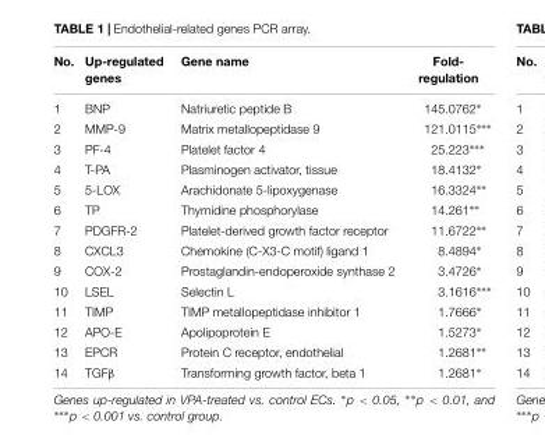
<table><thead><tr><td>No.</td><td>Up-regulated genes</td><td>Gene name</td><td>Fold- regulation</td></tr></thead><tbody><tr><td>1</td><td>BNP</td><td>Natriuretic peptide B</td><td>145.0762∗</td></tr><tr><td>2</td><td>MMP-9</td><td>Matrix metallopeptidase 9</td><td>121.0115∗∗∗</td></tr><tr><td>3</td><td>PF-4</td><td>Platelet factor 4</td><td>25.223∗∗∗</td></tr><tr><td>4</td><td>T-PA</td><td>Plasminogen activator, tissue</td><td>18.4132∗</td></tr><tr><td>5</td><td>5-LOX</td><td>Arachidonate 5-lipoxygenase</td><td>16.3324∗∗</td></tr><tr><td>6</td><td>TP</td><td>Thymidine phosphorylase</td><td>14.261∗∗</td></tr><tr><td>7</td><td>PDGFR-2</td><td>Platelet-derived growth factor receptor</td><td>11.6722∗∗</td></tr><tr><td>8</td><td>CXCL3</td><td>Chemokine (C-X3-C motif) ligand 1</td><td>8.4894∗</td></tr><tr><td>9</td><td>COX-2</td><td>Prostaglandin-endoperoxide synthase 2</td><td>3.4726∗</td></tr><tr><td>10</td><td>LSEL</td><td>Selectin L</td><td>3.1616∗∗∗</td></tr><tr><td>11</td><td>TIMP</td><td>TIMP metallopeptidase inhibitor 1</td><td>1.7666∗</td></tr><tr><td>12</td><td>APO-E</td><td>Apolipoprotein E</td><td>1.5273∗</td></tr><tr><td>13</td><td>EPCR</td><td>Protein C receptor, endothelial</td><td>1.2681∗∗</td></tr><tr><td>14</td><td>TGFβ</td><td>Transforming growth factor, beta 1</td><td>1.2681∗</td></tr></tbody></table>